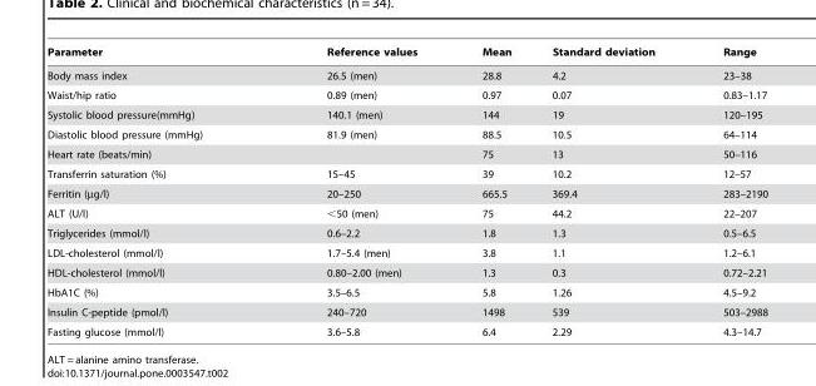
<table><thead><tr><td>Parameter</td><td>Reference values</td><td>Mean</td><td>Standard deviation</td><td>Range</td></tr></thead><tbody><tr><td>Body mass index</td><td>26.5 (men)</td><td>28.8</td><td>4.2</td><td>23–38</td></tr><tr><td>Waist/hip ratio</td><td>0.89 (men)</td><td>0.97</td><td>0.07</td><td>0.83–1.17</td></tr><tr><td>Systolic blood pressure(mmHg)</td><td>140.1 (men)</td><td>144</td><td>19</td><td>120–195</td></tr><tr><td>Diastolic blood pressure (mmHg)</td><td>81.9 (men)</td><td>88.5</td><td>10.5</td><td>64–114</td></tr><tr><td>Heart rate (beats/min)</td><td></td><td>75</td><td>13</td><td>50–116</td></tr><tr><td>Transferrin saturation (%)</td><td>15–45</td><td>39</td><td>10.2</td><td>12–57</td></tr><tr><td>Ferritin (µg/l)</td><td>20–250</td><td>665.5</td><td>369.4</td><td>283–2190</td></tr><tr><td>ALT (U/l)</td><td>&lt;50 (men)</td><td>75</td><td>44.2</td><td>22–207</td></tr><tr><td>Triglycerides (mmol/l)</td><td>0.6–2.2</td><td>1.8</td><td>1.3</td><td>0.5–6.5</td></tr><tr><td>LDL-cholesterol (mmol/l)</td><td>1.7–5.4 (men)</td><td>3.8</td><td>1.1</td><td>1.2–6.1</td></tr><tr><td>HDL-cholesterol (mmol/l)</td><td>0.80–2.00 (men)</td><td>1.3</td><td>0.3</td><td>0.72–2.21</td></tr><tr><td>HbA1C (%)</td><td>3.5–6.5</td><td>5.8</td><td>1.26</td><td>4.5–9.2</td></tr><tr><td>Insulin C-peptide (pmol/l)</td><td>240–720</td><td>1498</td><td>539</td><td>503–2988</td></tr><tr><td>Fasting glucose (mmol/l)</td><td>3.6–5.8</td><td>6.4</td><td>2.29</td><td>4.3–14.7</td></tr></tbody></table>